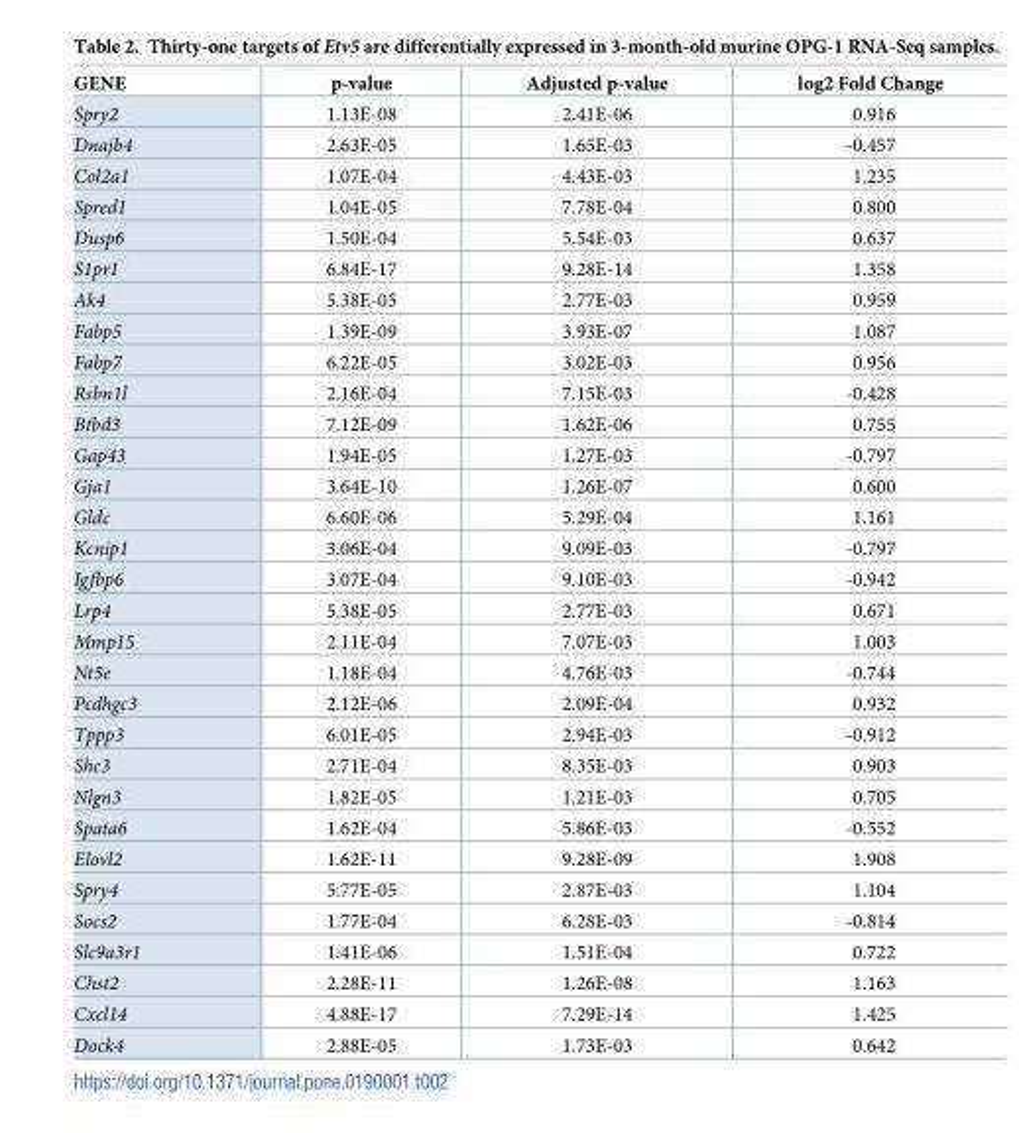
<table><thead><tr><td>GENE</td><td>p-value</td><td>Adjusted p-value</td><td>log2 Fold Change</td></tr></thead><tbody><tr><td>Spry2</td><td>1.13E-08</td><td>2.41E-06</td><td>0.916</td></tr><tr><td>Dnajb4</td><td>2.63E-05</td><td>1.65E-03</td><td>-0.457</td></tr><tr><td>Col2a1</td><td>1.07E-04</td><td>4.43E-03</td><td>1.235</td></tr><tr><td>Spred1</td><td>1.04E-05</td><td>7.78E-04</td><td>0.800</td></tr><tr><td>Dusp6</td><td>1.50E-04</td><td>5.54E-03</td><td>0.637</td></tr><tr><td>S1pr1</td><td>6.84E-17</td><td>9.28E-14</td><td>1.358</td></tr><tr><td>Ak4</td><td>5.38E-05</td><td>2.77E-03</td><td>0.959</td></tr><tr><td>Fabp5</td><td>1.39E-09</td><td>3.93E-07</td><td>1.087</td></tr><tr><td>Fabp7</td><td>6.22E-05</td><td>3.02E-03</td><td>0.956</td></tr><tr><td>Rsbn1l</td><td>2.16E-04</td><td>7.15E-03</td><td>-0.428</td></tr><tr><td>Btbd3</td><td>7.12E-09</td><td>1.62E-06</td><td>0.755</td></tr><tr><td>Gap43</td><td>1.94E-05</td><td>1.27E-03</td><td>-0.797</td></tr><tr><td>Gja1</td><td>3.64E-10</td><td>1.26E-07</td><td>0.600</td></tr><tr><td>Gldc</td><td>6.60E-06</td><td>5.29E-04</td><td>1.161</td></tr><tr><td>Kcnip1</td><td>3.06E-04</td><td>9.09E-03</td><td>-0.797</td></tr><tr><td>Igfbp6</td><td>3.07E-04</td><td>9.10E-03</td><td>-0.942</td></tr><tr><td>Lrp4</td><td>5.38E-05</td><td>2.77E-03</td><td>0.671</td></tr><tr><td>Mmp15</td><td>2.11E-04</td><td>7.07E-03</td><td>1.003</td></tr><tr><td>Nt5e</td><td>1.18E-04</td><td>4.76E-03</td><td>-0.744</td></tr><tr><td>Pcdhgc3</td><td>2.12E-06</td><td>2.09E-04</td><td>0.932</td></tr><tr><td>Tppp3</td><td>6.01E-05</td><td>2.94E-03</td><td>-0.912</td></tr><tr><td>Shc3</td><td>2.71E-04</td><td>8.35E-03</td><td>0.903</td></tr><tr><td>Nlgn3</td><td>1.82E-05</td><td>1.21E-03</td><td>0.705</td></tr><tr><td>Spata6</td><td>1.62E-04</td><td>5.86E-03</td><td>-0.552</td></tr><tr><td>Elovl2</td><td>1.62E-11</td><td>9.28E-09</td><td>1.908</td></tr><tr><td>Spry4</td><td>5.77E-05</td><td>2.87E-03</td><td>1.104</td></tr><tr><td>Socs2</td><td>1.77E-04</td><td>6.28E-03</td><td>-0.814</td></tr><tr><td>Slc9a3r1</td><td>1.41E-06</td><td>1.51E-04</td><td>0.722</td></tr><tr><td>Chst2</td><td>2.28E-11</td><td>1.26E-08</td><td>1.163</td></tr><tr><td>Cxcl14</td><td>4.88E-17</td><td>7.29E-14</td><td>1.425</td></tr><tr><td>Dock4</td><td>2.88E-05</td><td>1.73E-03</td><td>0.642</td></tr></tbody></table>